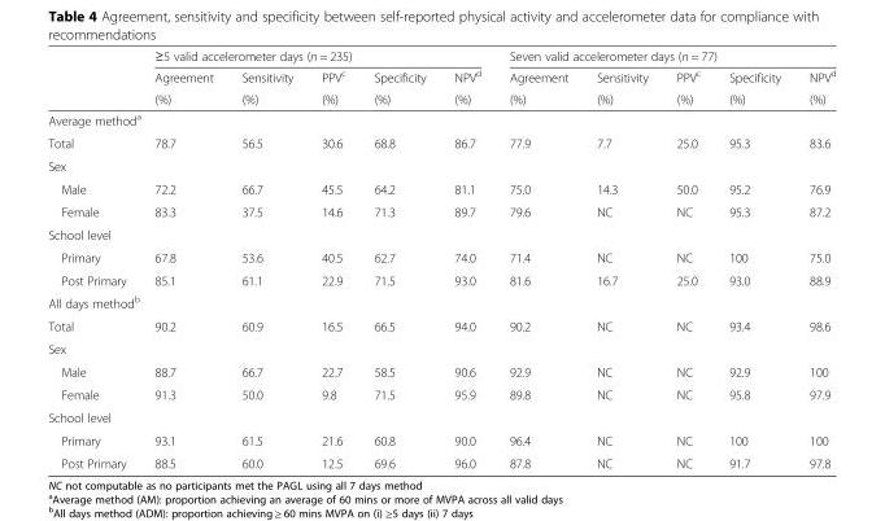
<table><thead><tr><td rowspan="3"></td><td colspan="5">≥5 valid accelerometer days (n = 235)</td><td colspan="5">Seven valid accelerometer days (n = 77)</td></tr><tr><td rowspan="2">Agreement (%)</td><td rowspan="2">Sensitivity (%)</td><td rowspan="2">PPV<sup>c</sup> (%)</td><td rowspan="2">Specificity (%)</td><td rowspan="2">NPV<sup>d</sup> (%)</td><td rowspan="2">Agreement (%)</td><td rowspan="2">Sensitivity (%)</td><td rowspan="2">PPV<sup>c</sup> (%)</td><td rowspan="2">Specificity (%)</td><td rowspan="2">NPV<sup>d</sup> (%)</td></tr><tr></tr></thead><tbody><tr><td colspan="11">Average method<sup>a</sup></td></tr><tr><td>Total</td><td>78.7</td><td>56.5</td><td>30.6</td><td>68.8</td><td>86.7</td><td>77.9</td><td>7.7</td><td>25.0</td><td>95.3</td><td>83.6</td></tr><tr><td colspan="11">Sex</td></tr><tr><td>Male</td><td>72.2</td><td>66.7</td><td>45.5</td><td>64.2</td><td>81.1</td><td>75.0</td><td>14.3</td><td>50.0</td><td>95.2</td><td>76.9</td></tr><tr><td>Female</td><td>83.3</td><td>37.5</td><td>14.6</td><td>71.3</td><td>89.7</td><td>79.6</td><td>NC</td><td>NC</td><td>95.3</td><td>87.2</td></tr><tr><td colspan="11">School level</td></tr><tr><td>Primary</td><td>67.8</td><td>53.6</td><td>40.5</td><td>62.7</td><td>74.0</td><td>71.4</td><td>NC</td><td>NC</td><td>100</td><td>75.0</td></tr><tr><td>Post Primary</td><td>85.1</td><td>61.1</td><td>22.9</td><td>71.5</td><td>93.0</td><td>81.6</td><td>16.7</td><td>25.0</td><td>93.0</td><td>88.9</td></tr><tr><td colspan="11">All days method<sup>b</sup></td></tr><tr><td>Total</td><td>90.2</td><td>60.9</td><td>16.5</td><td>66.5</td><td>94.0</td><td>90.2</td><td>NC</td><td>NC</td><td>93.4</td><td>98.6</td></tr><tr><td colspan="11">Sex</td></tr><tr><td>Male</td><td>88.7</td><td>66.7</td><td>22.7</td><td>58.5</td><td>90.6</td><td>92.9</td><td>NC</td><td>NC</td><td>92.9</td><td>100</td></tr><tr><td>Female</td><td>91.3</td><td>50.0</td><td>9.8</td><td>71.5</td><td>95.9</td><td>89.8</td><td>NC</td><td>NC</td><td>95.8</td><td>97.9</td></tr><tr><td colspan="11">School level</td></tr><tr><td>Primary</td><td>93.1</td><td>61.5</td><td>21.6</td><td>60.8</td><td>90.0</td><td>96.4</td><td>NC</td><td>NC</td><td>100</td><td>100</td></tr><tr><td>Post Primary</td><td>88.5</td><td>60.0</td><td>12.5</td><td>69.6</td><td>96.0</td><td>87.8</td><td>NC</td><td>NC</td><td>91.7</td><td>97.8</td></tr></tbody></table>